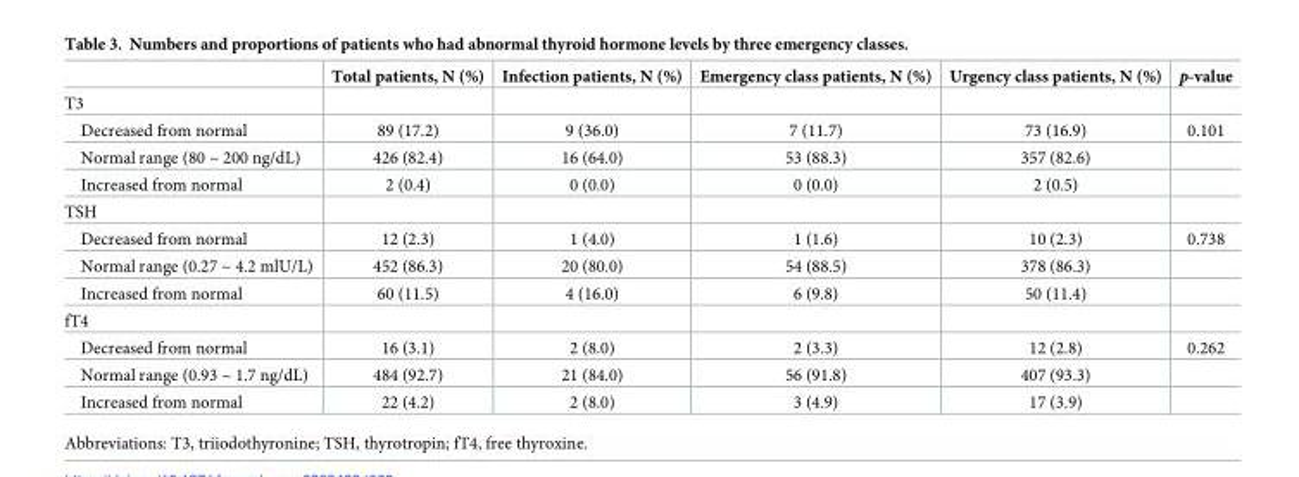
<table><thead><tr><td></td><td>Total patients, N (%)</td><td>Infection patients, N (%)</td><td>Emergency class patients, N (%)</td><td>Urgency class patients, N (%)</td><td>p-value</td></tr></thead><tbody><tr><td colspan="6">T3</td></tr><tr><td>Decreased from normal</td><td>89 (17.2)</td><td>9 (36.0)</td><td>7 (11.7)</td><td>73 (16.9)</td><td>0.101</td></tr><tr><td>Normal range (80 ~ 200 ng/dL)</td><td>426 (82.4)</td><td>16 (64.0)</td><td>53 (88.3)</td><td>357 (82.6)</td><td></td></tr><tr><td>Increased from normal</td><td>2 (0.4)</td><td>0 (0.0)</td><td>0 (0.0)</td><td>2 (0.5)</td><td></td></tr><tr><td colspan="6">TSH</td></tr><tr><td>Decreased from normal</td><td>12 (2.3)</td><td>1 (4.0)</td><td>1 (1.6)</td><td>10 (2.3)</td><td>0.738</td></tr><tr><td>Normal range (0.27 ~ 4.2 mlU/L)</td><td>452 (86.3)</td><td>20 (80.0)</td><td>54 (88.5)</td><td>378 (86.3)</td><td></td></tr><tr><td>Increased from normal</td><td>60 (11.5)</td><td>4 (16.0)</td><td>6 (9.8)</td><td>50 (11.4)</td><td></td></tr><tr><td colspan="6">fT4</td></tr><tr><td>Decreased from normal</td><td>16 (3.1)</td><td>2 (8.0)</td><td>2 (3.3)</td><td>12 (2.8)</td><td>0.262</td></tr><tr><td>Normal range (0.93 ~ 1.7 ng/dL)</td><td>484 (92.7)</td><td>21 (84.0)</td><td>56 (91.8)</td><td>407 (93.3)</td><td></td></tr><tr><td>Increased from normal</td><td>22 (4.2)</td><td>2 (8.0)</td><td>3 (4.9)</td><td>17 (3.9)</td><td></td></tr></tbody></table>